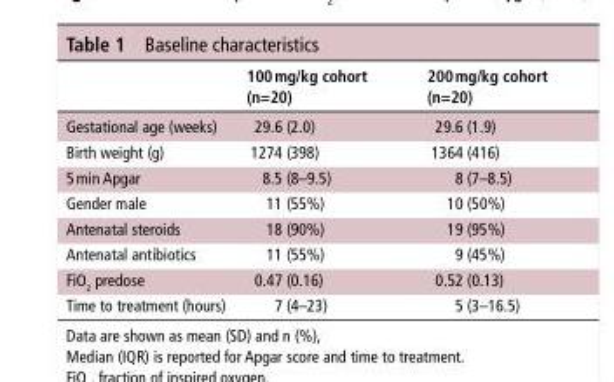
<table><thead><tr><td></td><td>100 mg/kg cohort (n=20)</td><td>200 mg/kg cohort (n=20)</td></tr></thead><tbody><tr><td>Gestational age (weeks)</td><td>29.6 (2.0)</td><td>29.6 (1.9)</td></tr><tr><td>Birth weight (g)</td><td>1274 (398)</td><td>1364 (416)</td></tr><tr><td>5 min Apgar</td><td>8.5 (8–9.5)</td><td>8 (7–8.5)</td></tr><tr><td>Gender male</td><td>11 (55%)</td><td>10 (50%)</td></tr><tr><td>Antenatal steroids</td><td>18 (90%)</td><td>19 (95%)</td></tr><tr><td>Antenatal antibiotics</td><td>11 (55%)</td><td>9 (45%)</td></tr><tr><td>FiO<sub>2</sub> predose</td><td>0.47 (0.16)</td><td>0.52 (0.13)</td></tr><tr><td>Time to treatment (hours)</td><td>7 (4–23)</td><td>5 (3–16.5)</td></tr></tbody></table>